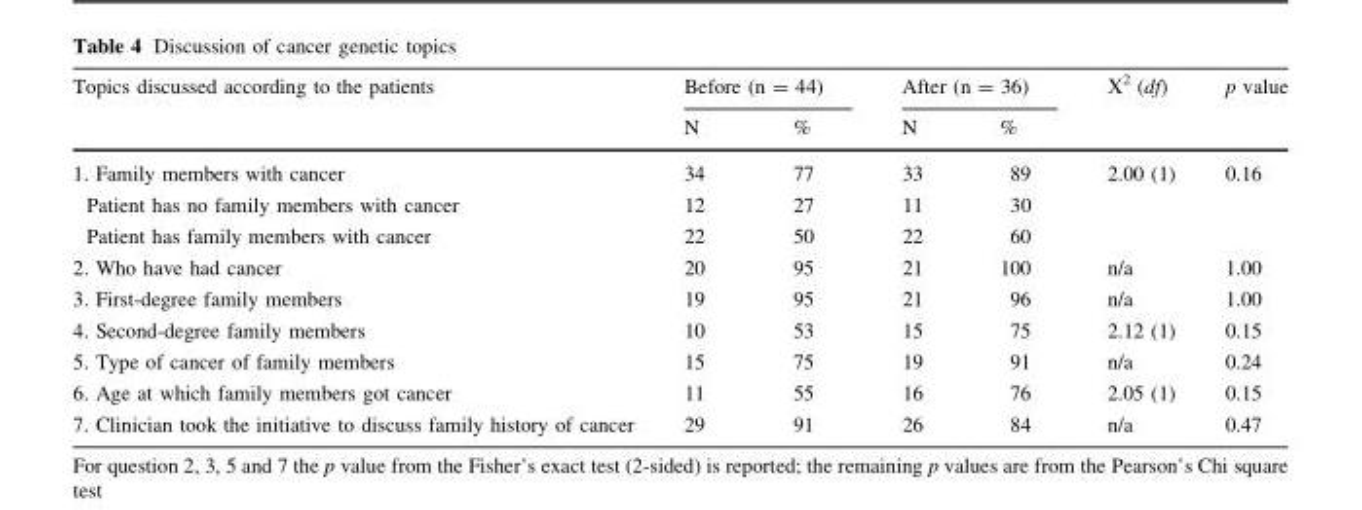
<table><thead><tr><td rowspan="2">Topics discussed according to the patients</td><td colspan="2">Before (n = 44)</td><td colspan="2">After (n = 36)</td><td rowspan="2">Χ<sup>2</sup> (df)</td><td rowspan="2">p value</td></tr><tr><td>N</td><td>%</td><td>N</td><td>%</td></tr></thead><tbody><tr><td>1. Family members with cancer</td><td>34</td><td>77</td><td>33</td><td>89</td><td>2.00 (1)</td><td>0.16</td></tr><tr><td>Patient has no family members with cancer</td><td>12</td><td>27</td><td>11</td><td>30</td><td></td><td></td></tr><tr><td>Patient has family members with cancer</td><td>22</td><td>50</td><td>22</td><td>60</td><td></td><td></td></tr><tr><td>2. Who have had cancer</td><td>20</td><td>95</td><td>21</td><td>100</td><td>n/a</td><td>1.00</td></tr><tr><td>3. First-degree family members</td><td>19</td><td>95</td><td>21</td><td>96</td><td>n/a</td><td>1.00</td></tr><tr><td>4. Second-degree family members</td><td>10</td><td>53</td><td>15</td><td>75</td><td>2.12 (1)</td><td>0.15</td></tr><tr><td>5. Type of cancer of family members</td><td>15</td><td>75</td><td>19</td><td>91</td><td>n/a</td><td>0.24</td></tr><tr><td>6. Age at which family members got cancer</td><td>11</td><td>55</td><td>16</td><td>76</td><td>2.05 (1)</td><td>0.15</td></tr><tr><td>7. Clinician took the initiative to discuss family history of cancer</td><td>29</td><td>91</td><td>26</td><td>84</td><td>n/a</td><td>0.47</td></tr></tbody></table>